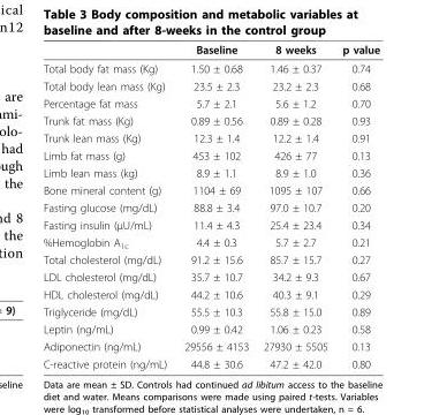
<table><thead><tr><td></td><td>Baseline</td><td>8 weeks</td><td>p value</td></tr></thead><tbody><tr><td>Total body fat mass (Kg)</td><td>1.50 ± 0.68</td><td>1.46 ± 0.37</td><td>0.74</td></tr><tr><td>Total body lean mass (Kg)</td><td>23.5 ± 2.3</td><td>23.2 ± 2.3</td><td>0.68</td></tr><tr><td>Percentage fat mass</td><td>5.7 ± 2.1</td><td>5.6 ± 1.2</td><td>0.70</td></tr><tr><td>Trunk fat mass (Kg)</td><td>0.89 ± 0.56</td><td>0.89 ± 0.28</td><td>0.93</td></tr><tr><td>Trunk lean mass (Kg)</td><td>12.3 ± 1.4</td><td>12.2 ± 1.4</td><td>0.91</td></tr><tr><td>Limb fat mass (g)</td><td>453 ± 102</td><td>426 ± 77</td><td>0.13</td></tr><tr><td>Limb lean mass (kg)</td><td>8.9 ± 1.1</td><td>8.9 ± 1.0</td><td>0.36</td></tr><tr><td>Bone mineral content (g)</td><td>1104 ± 69</td><td>1095 ± 107</td><td>0.66</td></tr><tr><td>Fasting glucose (mg/dL)</td><td>88.8 ± 3.4</td><td>97.0 ± 10.7</td><td>0.20</td></tr><tr><td>Fasting insulin (μU/mL)</td><td>11.4 ± 4.3</td><td>25.4 ± 23.4</td><td>0.34</td></tr><tr><td>%Hemoglobin A<sub>1c</sub></td><td>4.4 ± 0.3</td><td>5.7 ± 2.7</td><td>0.21</td></tr><tr><td>Total cholesterol (mg/dL)</td><td>91.2 ± 15.6</td><td>85.7 ± 15.7</td><td>0.27</td></tr><tr><td>LDL cholesterol (mg/dL)</td><td>35.7 ± 10.7</td><td>34.2 ± 9.3</td><td>0.67</td></tr><tr><td>HDL cholesterol (mg/dL)</td><td>44.2 ± 10.6</td><td>40.3 ± 9.1</td><td>0.29</td></tr><tr><td>Triglyceride (mg/dL)</td><td>55.5 ± 10.3</td><td>55.8 ± 15.0</td><td>0.89</td></tr><tr><td>Leptin (ng/mL)</td><td>0.99 ± 0.42</td><td>1.06 ± 0.23</td><td>0.58</td></tr><tr><td>Adiponectin (ng/mL)</td><td>29556 ± 4153</td><td>27930 ± 5505</td><td>0.13</td></tr><tr><td>C-reactive protein (ng/mL)</td><td>44.8 ± 30.6</td><td>47.2 ± 42.0</td><td>0.80</td></tr></tbody></table>